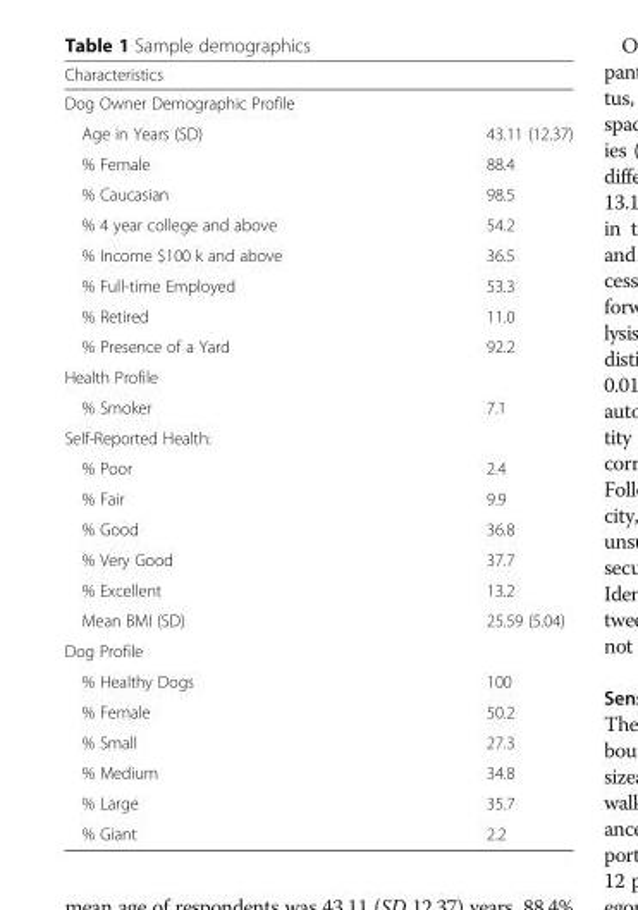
<table><thead><tr><td>Characteristics</td><td></td></tr></thead><tbody><tr><td colspan="2">Dog Owner Demographic Profile</td></tr><tr><td>Age in Years (SD)</td><td>43.11 (12.37)</td></tr><tr><td>% Female</td><td>88.4</td></tr><tr><td>% Caucasian</td><td>98.5</td></tr><tr><td>% 4 year college and above</td><td>54.2</td></tr><tr><td>% Income $100 k and above</td><td>36.5</td></tr><tr><td>% Full-time Employed</td><td>53.3</td></tr><tr><td>% Retired</td><td>11.0</td></tr><tr><td>% Presence of a Yard</td><td>92.2</td></tr><tr><td colspan="2">Health Profile</td></tr><tr><td>% Smoker</td><td>7.1</td></tr><tr><td colspan="2">Self-Reported Health:</td></tr><tr><td>% Poor</td><td>2.4</td></tr><tr><td>% Fair</td><td>9.9</td></tr><tr><td>% Good</td><td>36.8</td></tr><tr><td>% Very Good</td><td>37.7</td></tr><tr><td>% Excellent</td><td>13.2</td></tr><tr><td>Mean BMI (SD)</td><td>25.59 (5.04)</td></tr><tr><td colspan="2">Dog Profile</td></tr><tr><td>% Healthy Dogs</td><td>100</td></tr><tr><td>% Female</td><td>50.2</td></tr><tr><td>% Small</td><td>27.3</td></tr><tr><td>% Medium</td><td>34.8</td></tr><tr><td>% Large</td><td>35.7</td></tr><tr><td>% Giant</td><td>2.2</td></tr></tbody></table>